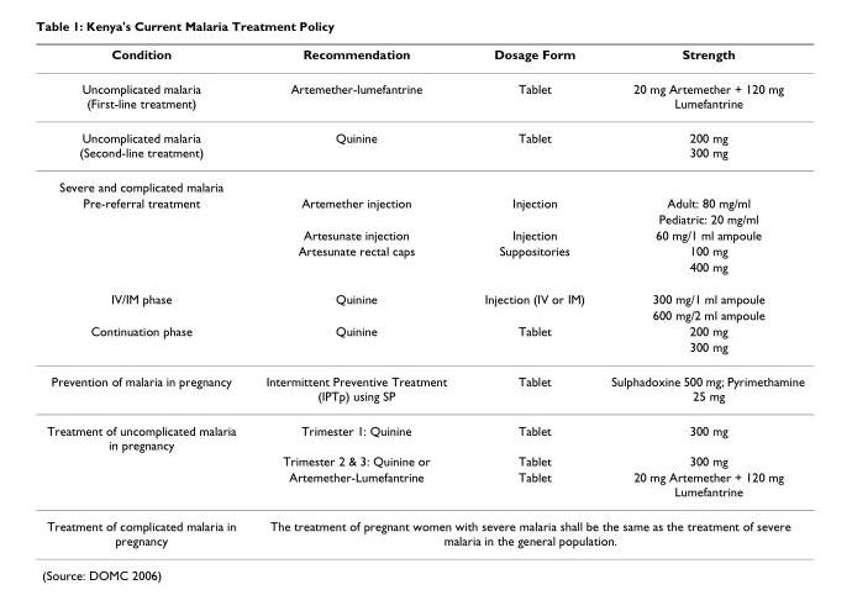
<table><thead><tr><td>Condition</td><td>Recommendation</td><td>Dosage Form</td><td>Strength</td></tr></thead><tbody><tr><td>Uncomplicated malaria (First-line treatment)</td><td>Artemether-lumefantrine</td><td>Tablet</td><td>20 mg Artemether + 120 mg Lumefantrine</td></tr><tr><td>Uncomplicated malaria (Second-line treatment)</td><td>Quinine</td><td>Tablet</td><td>200 mg 300 mg</td></tr><tr><td colspan="4">Severe and complicated malaria</td></tr><tr><td rowspan="5">Pre-referral treatment</td><td>Artemether injection</td><td>Injection</td><td>Adult: 80 mg/ml</td></tr><tr><td></td><td></td><td>Pediatric: 20 mg/ml</td></tr><tr><td>Artesunate injection</td><td>Injection</td><td>60 mg/1 ml ampoule</td></tr><tr><td>Artesunate rectal caps</td><td>Suppositories</td><td>100 mg</td></tr><tr><td></td><td></td><td>400 mg</td></tr><tr><td rowspan="2">IV/IM phase</td><td>Quinine</td><td>Injection (IV or IM)</td><td>300 mg/1 ml ampoule</td></tr><tr><td></td><td></td><td>600 mg/2 ml ampoule</td></tr><tr><td rowspan="2">Continuation phase</td><td>Quinine</td><td>Tablet</td><td>200 mg</td></tr><tr><td></td><td></td><td>300 mg</td></tr><tr><td>Prevention of malaria in pregnancy</td><td>Intermittent Preventive Treatment (IPTp) using SP</td><td>Tablet</td><td>Sulphadoxine 500 mg; Pyrimethamine 25 mg</td></tr><tr><td rowspan="3">Treatment of uncomplicated malaria in pregnancy</td><td>Trimester 1: Quinine</td><td>Tablet</td><td>300 mg</td></tr><tr><td>Trimester 2 &amp; 3: Quinine or</td><td>Tablet</td><td>300 mg</td></tr><tr><td>Artemether-Lumefantrine</td><td>Tablet</td><td>20 mg Artemether + 120 mg Lumefantrine</td></tr><tr><td>Treatment of complicated malaria in pregnancy</td><td colspan="3">The treatment of pregnant women with severe malaria shall be the same as the treatment of severe malaria in the general population.</td></tr></tbody></table>